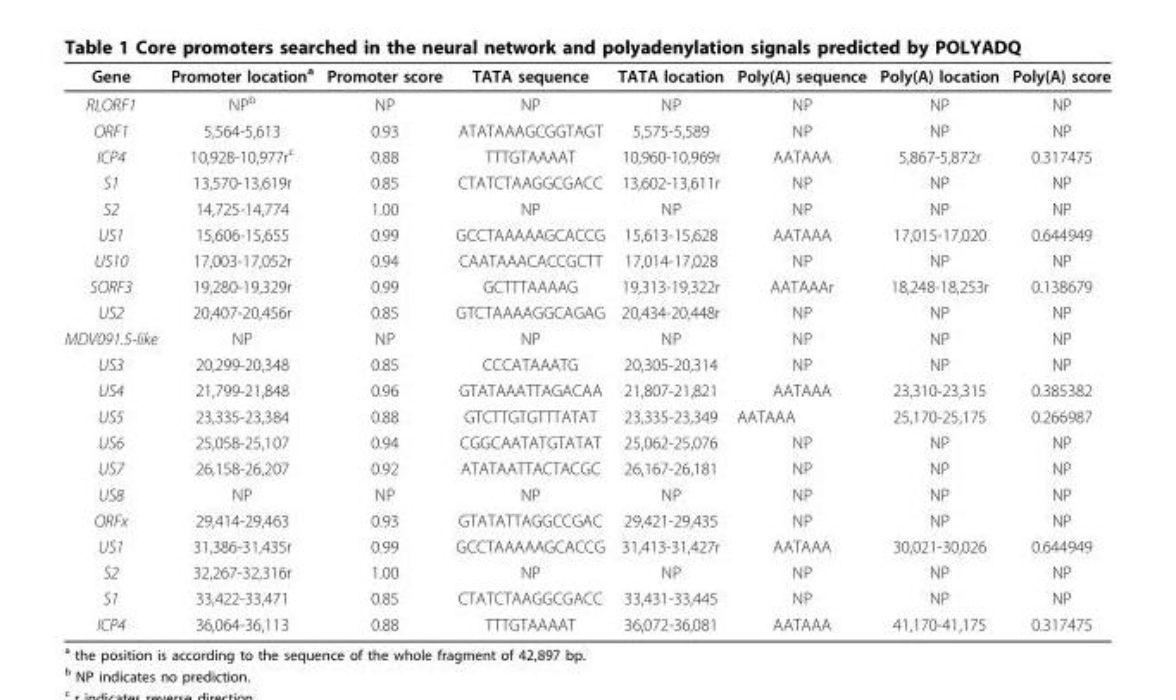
<table><thead><tr><td>Gene</td><td>Promoter location<sup>a</sup></td><td>Promoter score</td><td>TATA sequence</td><td>TATA location</td><td>Poly(A) sequence</td><td>Poly(A) location</td><td>Poly(A) score</td></tr></thead><tbody><tr><td>RLORF1</td><td>NP<sup>b</sup></td><td>NP</td><td>NP</td><td>NP</td><td>NP</td><td>NP</td><td>NP</td></tr><tr><td>ORF1</td><td>5,564-5,613</td><td>0.93</td><td>ATATAAAGCGGTAGT</td><td>5,575-5,589</td><td>NP</td><td>NP</td><td>NP</td></tr><tr><td>ICP4</td><td>10,928-10,977r<sup>c</sup></td><td>0.88</td><td>TTTGTAAAAT</td><td>10,960-10,969r</td><td>AATAAA</td><td>5,867-5,872r</td><td>0.317475</td></tr><tr><td>S1</td><td>13,570-13,619r</td><td>0.85</td><td>CTATCTAAGGCGACC</td><td>13,602-13,611r</td><td>NP</td><td>NP</td><td>NP</td></tr><tr><td>S2</td><td>14,725-14,774</td><td>1.00</td><td>NP</td><td>NP</td><td>NP</td><td>NP</td><td>NP</td></tr><tr><td>US1</td><td>15,606-15,655</td><td>0.99</td><td>GCCTAAAAAGCACCG</td><td>15,613-15,628</td><td>AATAAA</td><td>17,015-17,020</td><td>0.644949</td></tr><tr><td>US10</td><td>17,003-17,052r</td><td>0.94</td><td>CAATAAACACCGCTT</td><td>17,014-17,028</td><td>NP</td><td>NP</td><td>NP</td></tr><tr><td>SORF3</td><td>19,280-19,329r</td><td>0.99</td><td>GCTTTAAAAG</td><td>19,313-19,322r</td><td>AATAAAr</td><td>18,248-18,253r</td><td>0.138679</td></tr><tr><td>US2</td><td>20,407-20,456r</td><td>0.85</td><td>GTCTAAAAGGCAGAG</td><td>20,434-20,448r</td><td>NP</td><td>NP</td><td>NP</td></tr><tr><td>MDV091.5-like</td><td>NP</td><td>NP</td><td>NP</td><td>NP</td><td>NP</td><td>NP</td><td>NP</td></tr><tr><td>US3</td><td>20,299-20,348</td><td>0.85</td><td>CCCATAAATG</td><td>20,305-20,314</td><td>NP</td><td>NP</td><td>NP</td></tr><tr><td>US4</td><td>21,799-21,848</td><td>0.96</td><td>GTATAAATTAGACAA</td><td>21,807-21,821</td><td>AATAAA</td><td>23,310-23,315</td><td>0.385382</td></tr><tr><td>US5</td><td>23,335-23,384</td><td>0.88</td><td>GTCTTGTGTTTATAT</td><td>23,335-23,349</td><td>AATAAA</td><td>25,170-25,175</td><td>0.266987</td></tr><tr><td>US6</td><td>25,058-25,107</td><td>0.94</td><td>CGGCAATATGTATAT</td><td>25,062-25,076</td><td>NP</td><td>NP</td><td>NP</td></tr><tr><td>US7</td><td>26,158-26,207</td><td>0.92</td><td>ATATAATTACTACGC</td><td>26,167-26,181</td><td>NP</td><td>NP</td><td>NP</td></tr><tr><td>US8</td><td>NP</td><td>NP</td><td>NP</td><td>NP</td><td>NP</td><td>NP</td><td>NP</td></tr><tr><td>ORFx</td><td>29,414-29,463</td><td>0.93</td><td>GTATATTAGGCCGAC</td><td>29,421-29,435</td><td>NP</td><td>NP</td><td>NP</td></tr><tr><td>US1</td><td>31,386-31,435r</td><td>0.99</td><td>GCCTAAAAAGCACCG</td><td>31,413-31,427r</td><td>AATAAA</td><td>30,021-30,026</td><td>0.644949</td></tr><tr><td>S2</td><td>32,267-32,316r</td><td>1.00</td><td>NP</td><td>NP</td><td>NP</td><td>NP</td><td>NP</td></tr><tr><td>S1</td><td>33,422-33,471</td><td>0.85</td><td>CTATCTAAGGCGACC</td><td>33,431-33,445</td><td>NP</td><td>NP</td><td>NP</td></tr><tr><td>ICP4</td><td>36,064-36,113</td><td>0.88</td><td>TTTGTAAAAT</td><td>36,072-36,081</td><td>AATAAA</td><td>41,170-41,175</td><td>0.317475</td></tr></tbody></table>